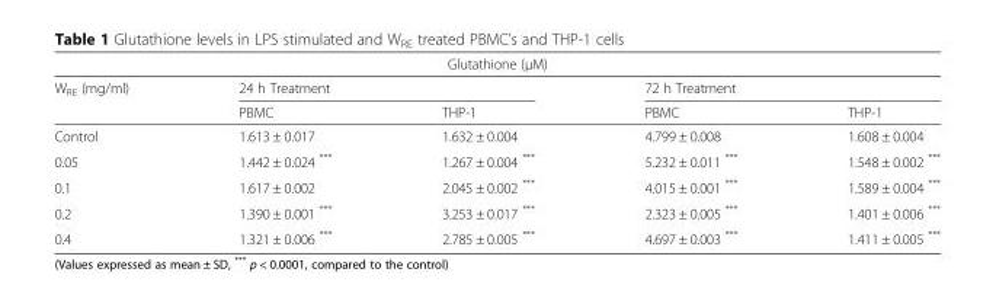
<table><thead><tr><td colspan="5">Glutathione (μM)</td></tr><tr><td rowspan="2">W<sub>RE</sub> (mg/ml)</td><td colspan="2">24 h Treatment</td><td colspan="2">72 h Treatment</td></tr><tr><td>PBMC</td><td>THP-1</td><td>PBMC</td><td>THP-1</td></tr></thead><tbody><tr><td>Control</td><td>1.613 ± 0.017</td><td>1.632 ± 0.004</td><td>4.799 ± 0.008</td><td>1.608 ± 0.004</td></tr><tr><td>0.05</td><td>1.442 ± 0.024 ***</td><td>1.267 ± 0.004 ***</td><td>5.232 ± 0.011 ***</td><td>1.548 ± 0.002 ***</td></tr><tr><td>0.1</td><td>1.617 ± 0.002</td><td>2.045 ± 0.002 ***</td><td>4.015 ± 0.001 ***</td><td>1.589 ± 0.004 ***</td></tr><tr><td>0.2</td><td>1.390 ± 0.001 ***</td><td>3.253 ± 0.017 ***</td><td>2.323 ± 0.005 ***</td><td>1.401 ± 0.006 ***</td></tr><tr><td>0.4</td><td>1.321 ± 0.006 ***</td><td>2.785 ± 0.005 ***</td><td>4.697 ± 0.003 ***</td><td>1.411 ± 0.005 ***</td></tr></tbody></table>